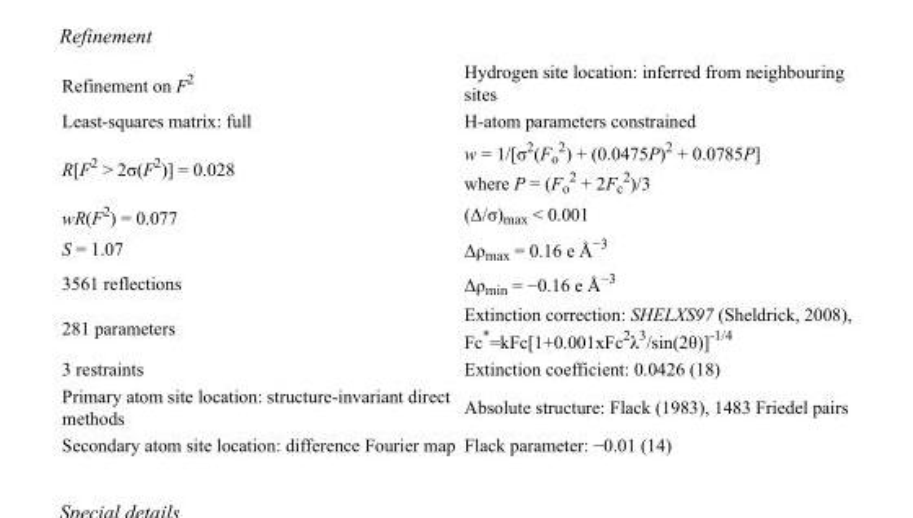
<table><tbody><tr><td>Refinement on F<sup>2</sup></td><td>Hydrogen site location: inferred from neighbouring sites</td></tr><tr><td>Least-squares matrix: full</td><td>H-atom parameters constrained</td></tr><tr><td>R[F<sup>2</sup> &gt; 2σ(F<sup>2</sup>)] = 0.028</td><td>w = 1/[σ<sup>2</sup>(F<sub>o</sub> <sup>2</sup>) + (0.0475P)<sup>2</sup> + 0.0785P] where P = (F<sub>o</sub> <sup>2</sup> + 2F<sub>c</sub> <sup>2</sup>)/3</td></tr><tr><td>wR(F<sup>2</sup>) = 0.077</td><td>(Δ/σ)<sub>max</sub> &lt; 0.001</td></tr><tr><td>S = 1.07</td><td>Δρ<sub>max</sub> = 0.16 e Å<sup>−3</sup></td></tr><tr><td>3561 reflections</td><td>Δρ<sub>min</sub> = −0.16 e Å<sup>−3</sup></td></tr><tr><td>281 parameters</td><td>Extinction correction: SHELXS97 (Sheldrick, 2008), Fc*=kFc[1+0.001xFc<sup>2</sup>λ<sup>3</sup>/sin(2θ)]<sup>-1/4</sup></td></tr><tr><td>3 restraints</td><td>Extinction coefficient: 0.0426 (18)</td></tr><tr><td>Primary atom site location: structure-invariant direct methods</td><td>Absolute structure: Flack (1983), 1483 Friedel pairs</td></tr><tr><td>Secondary atom site location: difference Fourier map</td><td>Flack parameter: −0.01 (14)</td></tr></tbody></table>